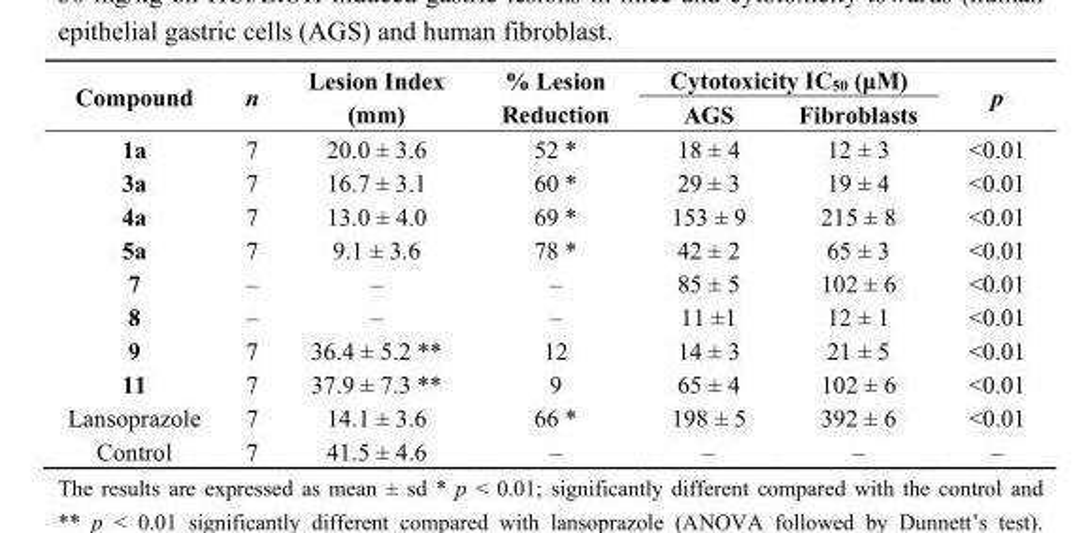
<table><thead><tr><td rowspan="2">Compound</td><td rowspan="2">n</td><td rowspan="2">Lesion Index (mm)</td><td rowspan="2">% Lesion Reduction</td><td colspan="2">Cytotoxicity IC<sub>50</sub> (μM)</td><td rowspan="2">p</td></tr><tr><td>AGS</td><td>Fibroblasts</td></tr></thead><tbody><tr><td>1a</td><td>7</td><td>20.0 ± 3.6</td><td>52 *</td><td>18 ± 4</td><td>12 ± 3</td><td>&lt;0.01</td></tr><tr><td>3a</td><td>7</td><td>16.7 ± 3.1</td><td>60 *</td><td>29 ± 3</td><td>19 ± 4</td><td>&lt;0.01</td></tr><tr><td>4a</td><td>7</td><td>13.0 ± 4.0</td><td>69 *</td><td>153 ± 9</td><td>215 ± 8</td><td>&lt;0.01</td></tr><tr><td>5a</td><td>7</td><td>9.1 ± 3.6</td><td>78 *</td><td>42 ± 2</td><td>65 ± 3</td><td>&lt;0.01</td></tr><tr><td>7</td><td>–</td><td>–</td><td>–</td><td>85 ± 5</td><td>102 ± 6</td><td>&lt;0.01</td></tr><tr><td>8</td><td>–</td><td>–</td><td>–</td><td>11 ±1</td><td>12 ± 1</td><td>&lt;0.01</td></tr><tr><td>9</td><td>7</td><td>36.4 ± 5.2 **</td><td>12</td><td>14 ± 3</td><td>21 ± 5</td><td>&lt;0.01</td></tr><tr><td>11</td><td>7</td><td>37.9 ± 7.3 **</td><td>9</td><td>65 ± 4</td><td>102 ± 6</td><td>&lt;0.01</td></tr><tr><td>Lansoprazole</td><td>7</td><td>14.1 ± 3.6</td><td>66 *</td><td>198 ± 5</td><td>392 ± 6</td><td>&lt;0.01</td></tr><tr><td>Control</td><td>7</td><td>41.5 ± 4.6</td><td>–</td><td>–</td><td>–</td><td>–</td></tr></tbody></table>